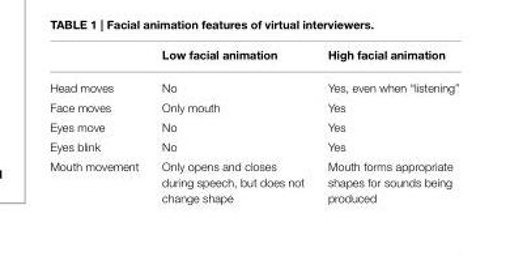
<table><thead><tr><td></td><td>Low facial animation</td><td>High facial animation</td></tr></thead><tbody><tr><td>Head moves</td><td>No</td><td>Yes, even when “listening”</td></tr><tr><td>Face moves</td><td>Only mouth</td><td>Yes</td></tr><tr><td>Eyes move</td><td>No</td><td>Yes</td></tr><tr><td>Eyes blink</td><td>No</td><td>Yes</td></tr><tr><td>Mouth movement</td><td>Only opens and closes during speech, but does not change shape</td><td>Mouth forms appropriate shapes for sounds being produced</td></tr></tbody></table>